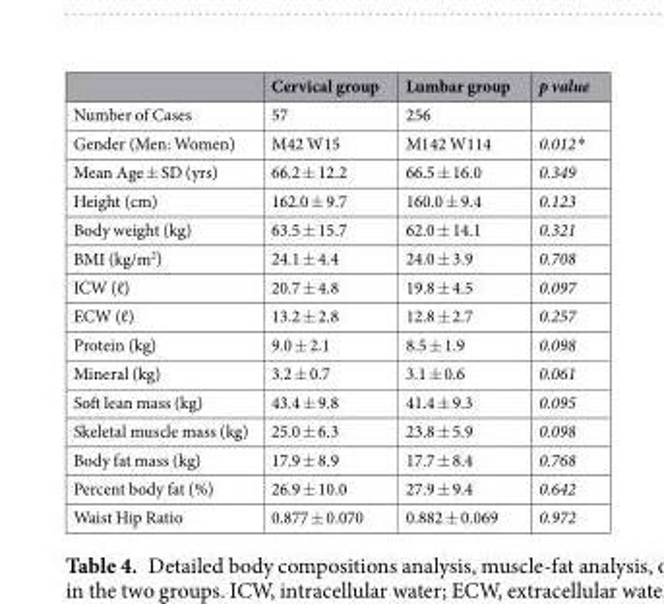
<table><thead><tr><td></td><td>Cervical group</td><td>Lumbar group</td><td>p value</td></tr></thead><tbody><tr><td>Number of Cases</td><td>57</td><td>256</td><td></td></tr><tr><td>Gender (Men: Women)</td><td>M42 W15</td><td>M142 W114</td><td>0.012*</td></tr><tr><td>Mean Age ± SD (yrs)</td><td>66.2 ± 12.2</td><td>66.5 ± 16.0</td><td>0.349</td></tr><tr><td>Height (cm)</td><td>162.0 ± 9.7</td><td>160.0 ± 9.4</td><td>0.123</td></tr><tr><td>Body weight (kg)</td><td>63.5 ± 15.7</td><td>62.0 ± 14.1</td><td>0.321</td></tr><tr><td>BMI (kg/m<sup>2</sup>)</td><td>24.1 ± 4.4</td><td>24.0 ± 3.9</td><td>0.708</td></tr><tr><td>ICW (ℓ)</td><td>20.7 ± 4.8</td><td>19.8 ± 4.5</td><td>0.097</td></tr><tr><td>ECW (ℓ)</td><td>13.2 ± 2.8</td><td>12.8 ± 2.7</td><td>0.257</td></tr><tr><td>Protein (kg)</td><td>9.0 ± 2.1</td><td>8.5 ± 1.9</td><td>0.098</td></tr><tr><td>Mineral (kg)</td><td>3.2 ± 0.7</td><td>3.1 ± 0.6</td><td>0.061</td></tr><tr><td>Soft lean mass (kg)</td><td>43.4 ± 9.8</td><td>41.4 ± 9.3</td><td>0.095</td></tr><tr><td>Skeletal muscle mass (kg)</td><td>25.0 ± 6.3</td><td>23.8 ± 5.9</td><td>0.098</td></tr><tr><td>Body fat mass (kg)</td><td>17.9 ± 8.9</td><td>17.7 ± 8.4</td><td>0.768</td></tr><tr><td>Percent body fat (%)</td><td>26.9 ± 10.0</td><td>27.9 ± 9.4</td><td>0.642</td></tr><tr><td>Waist Hip Ratio</td><td>0.877 ± 0.070</td><td>0.882 ± 0.069</td><td>0.972</td></tr></tbody></table>